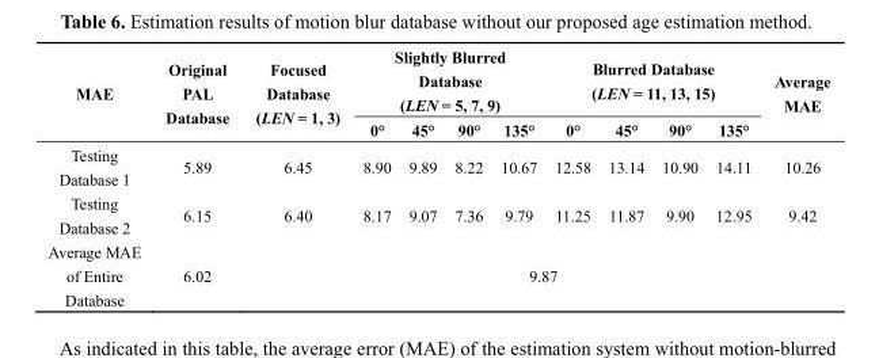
<table><thead><tr><td rowspan="2">MAE</td><td rowspan="2">Original PAL Database</td><td rowspan="2">Focused Database (LEN = 1, 3)</td><td colspan="4">Slightly Blurred Database (LEN = 5, 7, 9)</td><td colspan="4">Blurred Database (LEN = 11, 13, 15)</td><td rowspan="2">Average MAE</td></tr><tr><td>0°</td><td>45°</td><td>90°</td><td>135°</td><td>0°</td><td>45°</td><td>90°</td><td>135°</td></tr></thead><tbody><tr><td>Testing Database 1</td><td>5.89</td><td>6.45</td><td>8.90</td><td>9.89</td><td>8.22</td><td>10.67</td><td>12.58</td><td>13.14</td><td>10.90</td><td>14.11</td><td>10.26</td></tr><tr><td>Testing Database 2</td><td>6.15</td><td>6.40</td><td>8.17</td><td>9.07</td><td>7.36</td><td>9.79</td><td>11.25</td><td>11.87</td><td>9.90</td><td>12.95</td><td>9.42</td></tr><tr><td>Average MAE of Entire Database</td><td>6.02</td><td colspan="10">9.87</td></tr></tbody></table>